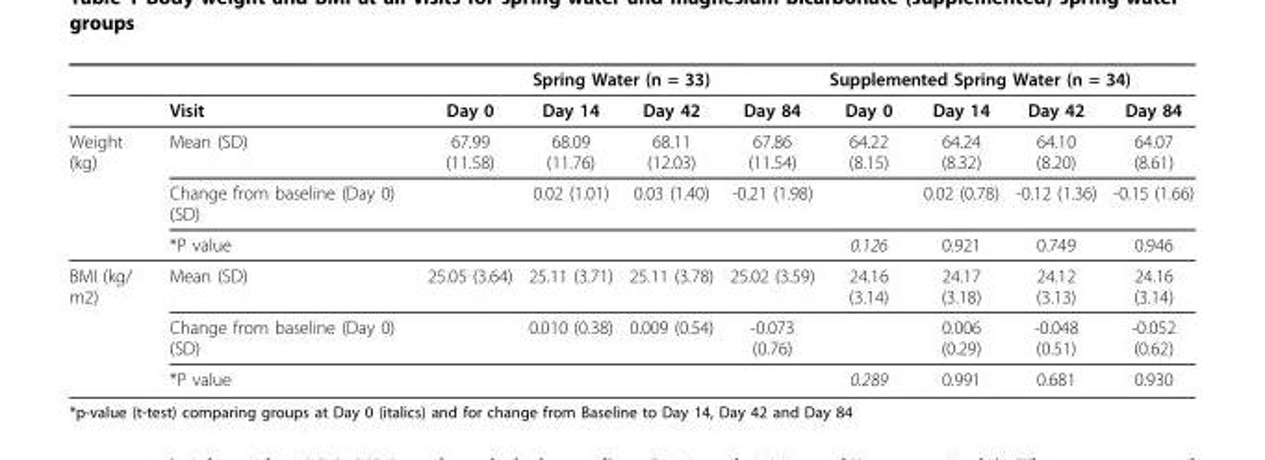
<table><thead><tr><td rowspan="2"></td><td rowspan="2">Visit</td><td colspan="4">Spring Water (n = 33)</td><td colspan="4">Supplemented Spring Water (n = 34)</td></tr><tr><td>Day 0</td><td>Day 14</td><td>Day 42</td><td>Day 84</td><td>Day 0</td><td>Day 14</td><td>Day 42</td><td>Day 84</td></tr></thead><tbody><tr><td rowspan="3">Weight (kg)</td><td>Mean (SD)</td><td>67.99 (11.58)</td><td>68.09 (11.76)</td><td>68.11 (12.03)</td><td>67.86 (11.54)</td><td>64.22 (8.15)</td><td>64.24 (8.32)</td><td>64.10 (8.20)</td><td>64.07 (8.61)</td></tr><tr><td>Change from baseline (Day 0) (SD)</td><td></td><td>0.02 (1.01)</td><td>0.03 (1.40)</td><td>-0.21 (1.98)</td><td></td><td>0.02 (0.78)</td><td>-0.12 (1.36)</td><td>-0.15 (1.66)</td></tr><tr><td>*P value</td><td></td><td></td><td></td><td></td><td>0.126</td><td>0.921</td><td>0.749</td><td>0.946</td></tr><tr><td rowspan="3">BMI (kg/ m2)</td><td>Mean (SD)</td><td>25.05 (3.64)</td><td>25.11 (3.71)</td><td>25.11 (3.78)</td><td>25.02 (3.59)</td><td>24.16 (3.14)</td><td>24.17 (3.18)</td><td>24.12 (3.13)</td><td>24.16 (3.14)</td></tr><tr><td>Change from baseline (Day 0) (SD)</td><td></td><td>0.010 (0.38)</td><td>0.009 (0.54)</td><td>-0.073 (0.76)</td><td></td><td>0.006 (0.29)</td><td>-0.048 (0.51)</td><td>-0.052 (0.62)</td></tr><tr><td>*P value</td><td></td><td></td><td></td><td></td><td>0.289</td><td>0.991</td><td>0.681</td><td>0.930</td></tr></tbody></table>